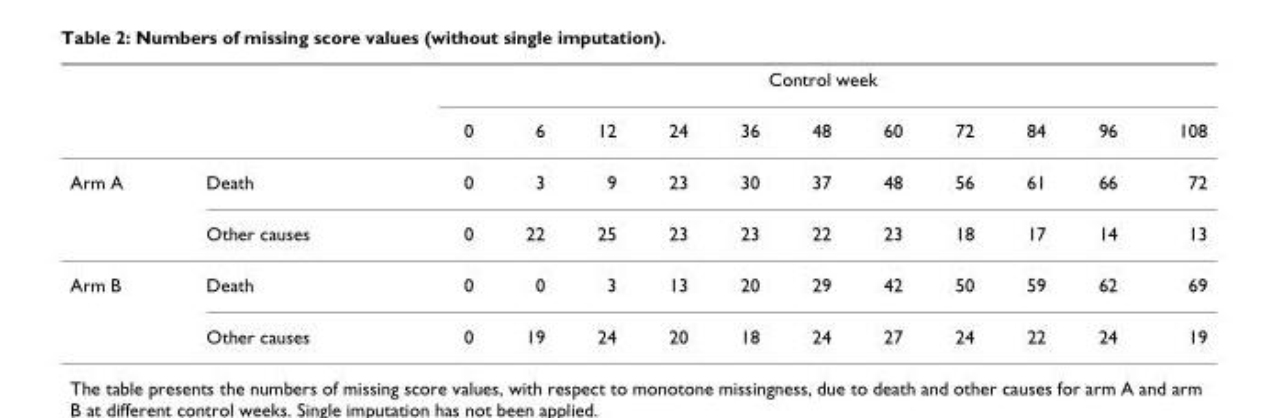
<table><thead><tr><td rowspan="2"></td><td rowspan="2"></td><td colspan="11">Control week</td></tr><tr><td>0</td><td>6</td><td>12</td><td>24</td><td>36</td><td>48</td><td>60</td><td>72</td><td>84</td><td>96</td><td>108</td></tr></thead><tbody><tr><td rowspan="2">Arm A</td><td>Death</td><td>0</td><td>3</td><td>9</td><td>23</td><td>30</td><td>37</td><td>48</td><td>56</td><td>61</td><td>66</td><td>72</td></tr><tr><td>Other causes</td><td>0</td><td>22</td><td>25</td><td>23</td><td>23</td><td>22</td><td>23</td><td>18</td><td>17</td><td>14</td><td>13</td></tr><tr><td rowspan="2">Arm B</td><td>Death</td><td>0</td><td>0</td><td>3</td><td>13</td><td>20</td><td>29</td><td>42</td><td>50</td><td>59</td><td>62</td><td>69</td></tr><tr><td>Other causes</td><td>0</td><td>19</td><td>24</td><td>20</td><td>18</td><td>24</td><td>27</td><td>24</td><td>22</td><td>24</td><td>19</td></tr></tbody></table>